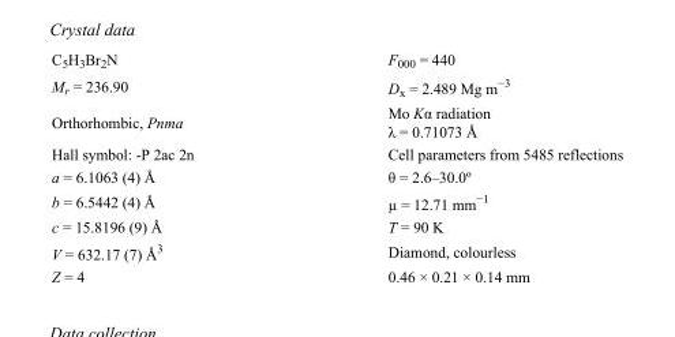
<table><tbody><tr><td>C<sub>5</sub>H<sub>3</sub>Br<sub>2</sub>N</td><td>F000 = 440</td></tr><tr><td>M<sub>r</sub> = 236.90</td><td>D<sub>x</sub> = 2.489 Mg m<sup>−3</sup></td></tr><tr><td>Orthorhombic, Pnma</td><td>Mo Kα radiation λ = 0.71073 Å</td></tr><tr><td>Hall symbol: -P 2ac 2n</td><td>Cell parameters from 5485 reflections</td></tr><tr><td>a = 6.1063 (4) Å</td><td>θ = 2.6–30.0º</td></tr><tr><td>b = 6.5442 (4) Å</td><td>µ = 12.71 mm<sup>−1</sup></td></tr><tr><td>c = 15.8196 (9) Å</td><td>T = 90 K</td></tr><tr><td>V = 632.17 (7) Å<sup>3</sup></td><td>Diamond, colourless</td></tr><tr><td>Z = 4</td><td>0.46 × 0.21 × 0.14 mm</td></tr></tbody></table>